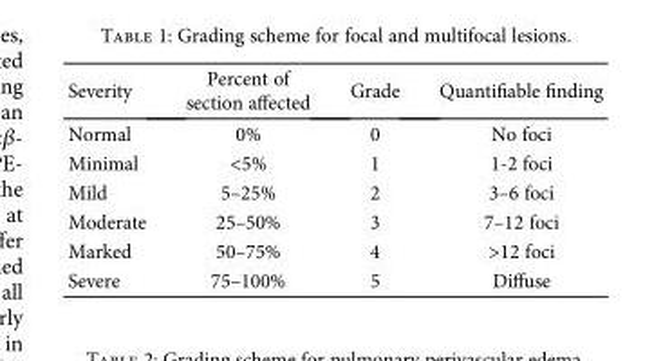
<table><thead><tr><td>Severity</td><td>Percent of section affected</td><td>Grade</td><td>Quantifiable finding</td></tr></thead><tbody><tr><td>Normal</td><td>0%</td><td>0</td><td>No foci</td></tr><tr><td>Minimal</td><td>&lt;5%</td><td>1</td><td>1-2 foci</td></tr><tr><td>Mild</td><td>5–25%</td><td>2</td><td>3–6 foci</td></tr><tr><td>Moderate</td><td>25–50%</td><td>3</td><td>7–12 foci</td></tr><tr><td>Marked</td><td>50–75%</td><td>4</td><td>&gt;12 foci</td></tr><tr><td>Severe</td><td>75–100%</td><td>5</td><td>Diffuse</td></tr></tbody></table>